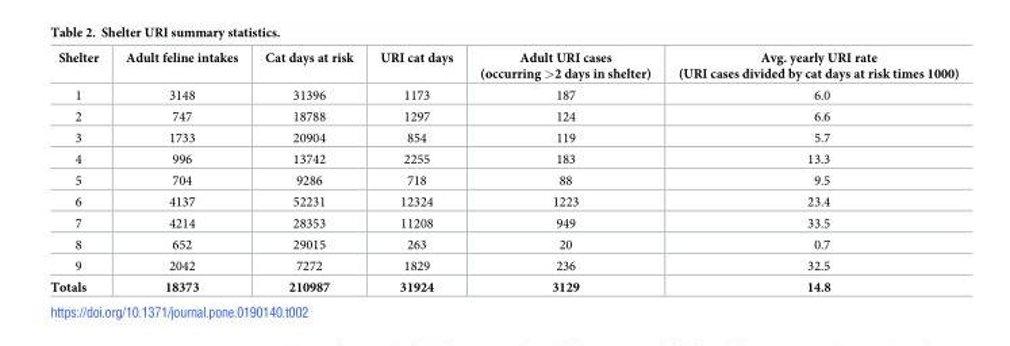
<table><thead><tr><td>Shelter</td><td>Adult feline intakes</td><td>Cat days at risk</td><td>URI cat days</td><td>Adult URI cases (occurring &gt;2 days in shelter)</td><td>Avg. yearly URI rate (URI cases divided by cat days at risk times 1000)</td></tr></thead><tbody><tr><td>1</td><td>3148</td><td>31396</td><td>1173</td><td>187</td><td>6.0</td></tr><tr><td>2</td><td>747</td><td>18788</td><td>1297</td><td>124</td><td>6.6</td></tr><tr><td>3</td><td>1733</td><td>20904</td><td>854</td><td>119</td><td>5.7</td></tr><tr><td>4</td><td>996</td><td>13742</td><td>2255</td><td>183</td><td>13.3</td></tr><tr><td>5</td><td>704</td><td>9286</td><td>718</td><td>88</td><td>9.5</td></tr><tr><td>6</td><td>4137</td><td>52231</td><td>12324</td><td>1223</td><td>23.4</td></tr><tr><td>7</td><td>4214</td><td>28353</td><td>11208</td><td>949</td><td>33.5</td></tr><tr><td>8</td><td>652</td><td>29015</td><td>263</td><td>20</td><td>0.7</td></tr><tr><td>9</td><td>2042</td><td>7272</td><td>1829</td><td>236</td><td>32.5</td></tr><tr><td>Totals</td><td>18373</td><td>210987</td><td>31924</td><td>3129</td><td>14.8</td></tr></tbody></table>